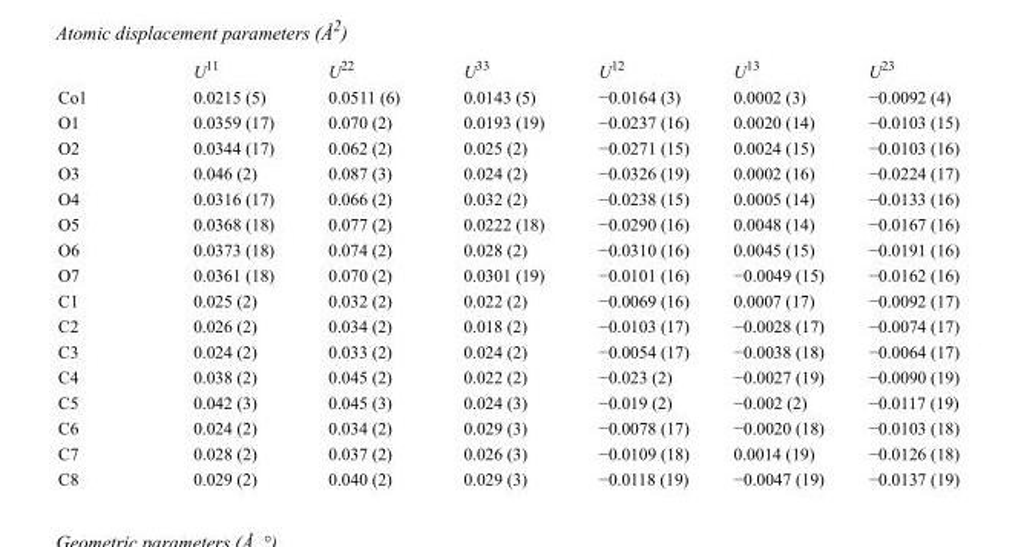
<table><thead><tr><td></td><td>U<sup>11</sup></td><td>U<sup>22</sup></td><td>U<sup>33</sup></td><td>U<sup>12</sup></td><td>U<sup>13</sup></td><td>U<sup>23</sup></td></tr></thead><tbody><tr><td>Co1</td><td>0.0215 (5)</td><td>0.0511 (6)</td><td>0.0143 (5)</td><td>−0.0164 (3)</td><td>0.0002 (3)</td><td>−0.0092 (4)</td></tr><tr><td>O1</td><td>0.0359 (17)</td><td>0.070 (2)</td><td>0.0193 (19)</td><td>−0.0237 (16)</td><td>0.0020 (14)</td><td>−0.0103 (15)</td></tr><tr><td>O2</td><td>0.0344 (17)</td><td>0.062 (2)</td><td>0.025 (2)</td><td>−0.0271 (15)</td><td>0.0024 (15)</td><td>−0.0103 (16)</td></tr><tr><td>O3</td><td>0.046 (2)</td><td>0.087 (3)</td><td>0.024 (2)</td><td>−0.0326 (19)</td><td>0.0002 (16)</td><td>−0.0224 (17)</td></tr><tr><td>O4</td><td>0.0316 (17)</td><td>0.066 (2)</td><td>0.032 (2)</td><td>−0.0238 (15)</td><td>0.0005 (14)</td><td>−0.0133 (16)</td></tr><tr><td>O5</td><td>0.0368 (18)</td><td>0.077 (2)</td><td>0.0222 (18)</td><td>−0.0290 (16)</td><td>0.0048 (14)</td><td>−0.0167 (16)</td></tr><tr><td>O6</td><td>0.0373 (18)</td><td>0.074 (2)</td><td>0.028 (2)</td><td>−0.0310 (16)</td><td>0.0045 (15)</td><td>−0.0191 (16)</td></tr><tr><td>O7</td><td>0.0361 (18)</td><td>0.070 (2)</td><td>0.0301 (19)</td><td>−0.0101 (16)</td><td>−0.0049 (15)</td><td>−0.0162 (16)</td></tr><tr><td>C1</td><td>0.025 (2)</td><td>0.032 (2)</td><td>0.022 (2)</td><td>−0.0069 (16)</td><td>0.0007 (17)</td><td>−0.0092 (17)</td></tr><tr><td>C2</td><td>0.026 (2)</td><td>0.034 (2)</td><td>0.018 (2)</td><td>−0.0103 (17)</td><td>−0.0028 (17)</td><td>−0.0074 (17)</td></tr><tr><td>C3</td><td>0.024 (2)</td><td>0.033 (2)</td><td>0.024 (2)</td><td>−0.0054 (17)</td><td>−0.0038 (18)</td><td>−0.0064 (17)</td></tr><tr><td>C4</td><td>0.038 (2)</td><td>0.045 (2)</td><td>0.022 (2)</td><td>−0.023 (2)</td><td>−0.0027 (19)</td><td>−0.0090 (19)</td></tr><tr><td>C5</td><td>0.042 (3)</td><td>0.045 (3)</td><td>0.024 (3)</td><td>−0.019 (2)</td><td>−0.002 (2)</td><td>−0.0117 (19)</td></tr><tr><td>C6</td><td>0.024 (2)</td><td>0.034 (2)</td><td>0.029 (3)</td><td>−0.0078 (17)</td><td>−0.0020 (18)</td><td>−0.0103 (18)</td></tr><tr><td>C7</td><td>0.028 (2)</td><td>0.037 (2)</td><td>0.026 (3)</td><td>−0.0109 (18)</td><td>0.0014 (19)</td><td>−0.0126 (18)</td></tr><tr><td>C8</td><td>0.029 (2)</td><td>0.040 (2)</td><td>0.029 (3)</td><td>−0.0118 (19)</td><td>−0.0047 (19)</td><td>−0.0137 (19)</td></tr></tbody></table>